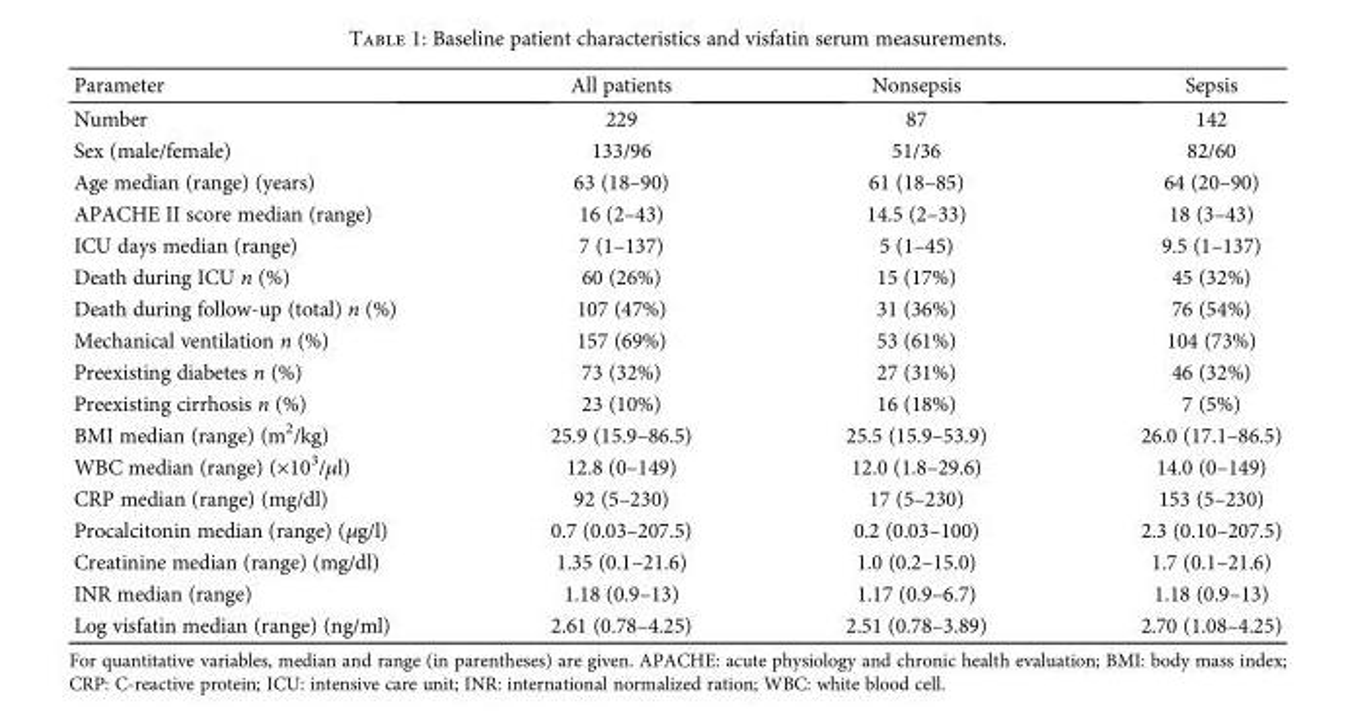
<table><thead><tr><td>Parameter</td><td>All patients</td><td>Nonsepsis</td><td>Sepsis</td></tr></thead><tbody><tr><td>Number</td><td>229</td><td>87</td><td>142</td></tr><tr><td>Sex (male/female)</td><td>133/96</td><td>51/36</td><td>82/60</td></tr><tr><td>Age median (range) (years)</td><td>63 (18–90)</td><td>61 (18–85)</td><td>64 (20–90)</td></tr><tr><td>APACHE II score median (range)</td><td>16 (2–43)</td><td>14.5 (2–33)</td><td>18 (3–43)</td></tr><tr><td>ICU days median (range)</td><td>7 (1–137)</td><td>5 (1–45)</td><td>9.5 (1–137)</td></tr><tr><td>Death during ICU n (%)</td><td>60 (26%)</td><td>15 (17%)</td><td>45 (32%)</td></tr><tr><td>Death during follow-up (total) n (%)</td><td>107 (47%)</td><td>31 (36%)</td><td>76 (54%)</td></tr><tr><td>Mechanical ventilation n (%)</td><td>157 (69%)</td><td>53 (61%)</td><td>104 (73%)</td></tr><tr><td>Preexisting diabetes n (%)</td><td>73 (32%)</td><td>27 (31%)</td><td>46 (32%)</td></tr><tr><td>Preexisting cirrhosis n (%)</td><td>23 (10%)</td><td>16 (18%)</td><td>7 (5%)</td></tr><tr><td>BMI median (range) (m<sup>2</sup>/kg)</td><td>25.9 (15.9–86.5)</td><td>25.5 (15.9–53.9)</td><td>26.0 (17.1–86.5)</td></tr><tr><td>WBC median (range) (×10<sup>3</sup>/μl)</td><td>12.8 (0–149)</td><td>12.0 (1.8–29.6)</td><td>14.0 (0–149)</td></tr><tr><td>CRP median (range) (mg/dl)</td><td>92 (5–230)</td><td>17 (5–230)</td><td>153 (5–230)</td></tr><tr><td>Procalcitonin median (range) (μg/l)</td><td>0.7 (0.03–207.5)</td><td>0.2 (0.03–100)</td><td>2.3 (0.10–207.5)</td></tr><tr><td>Creatinine median (range) (mg/dl)</td><td>1.35 (0.1–21.6)</td><td>1.0 (0.2–15.0)</td><td>1.7 (0.1–21.6)</td></tr><tr><td>INR median (range)</td><td>1.18 (0.9–13)</td><td>1.17 (0.9–6.7)</td><td>1.18 (0.9–13)</td></tr><tr><td>Log visfatin median (range) (ng/ml)</td><td>2.61 (0.78–4.25)</td><td>2.51 (0.78–3.89)</td><td>2.70 (1.08–4.25)</td></tr></tbody></table>